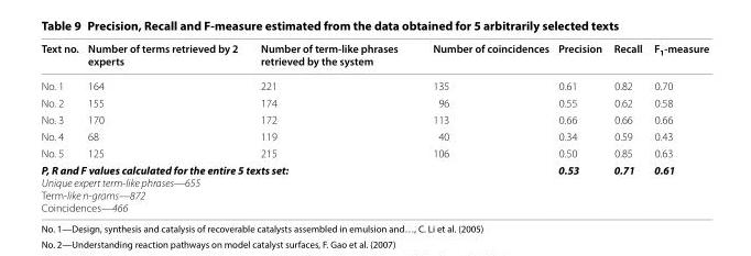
<table><thead><tr><td>Text no.</td><td>Number of terms retrieved by 2 experts</td><td>Number of term‑like phrases retrieved by the system</td><td>Number of coincidences</td><td>Precision</td><td>Recall</td><td>F<sub>1</sub>‑measure</td></tr></thead><tbody><tr><td>No. 1</td><td>164</td><td>221</td><td>135</td><td>0.61</td><td>0.82</td><td>0.70</td></tr><tr><td>No. 2</td><td>155</td><td>174</td><td>96</td><td>0.55</td><td>0.62</td><td>0.58</td></tr><tr><td>No. 3</td><td>170</td><td>172</td><td>113</td><td>0.66</td><td>0.66</td><td>0.66</td></tr><tr><td>No. 4</td><td>68</td><td>119</td><td>40</td><td>0.34</td><td>0.59</td><td>0.43</td></tr><tr><td>No. 5</td><td>125</td><td>215</td><td>106</td><td>0.50</td><td>0.85</td><td>0.63</td></tr><tr><td colspan="4">P, R and F values calculated for the entire 5 texts set: Unique expert term-like phrases—655 Term-like n-grams—872 Coincidences—466</td><td>0.53</td><td>0.71</td><td>0.61</td></tr></tbody></table>